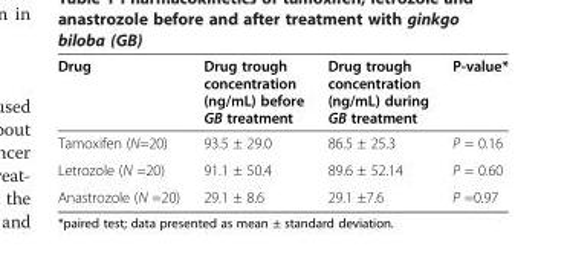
<table><thead><tr><td>Drug</td><td>Drug trough concentration (ng/mL) before GB treatment</td><td>Drug trough concentration (ng/mL) during GB treatment</td><td>P-value*</td></tr></thead><tbody><tr><td>Tamoxifen (N=20)</td><td>93.5 ± 29.0</td><td>86.5 ± 25.3</td><td>P = 0.16</td></tr><tr><td>Letrozole (N =20)</td><td>91.1 ± 50.4</td><td>89.6 ± 52.14</td><td>P = 0.60</td></tr><tr><td>Anastrozole (N =20)</td><td>29.1 ± 8.6</td><td>29.1 ±7.6</td><td>P =0.97</td></tr></tbody></table>